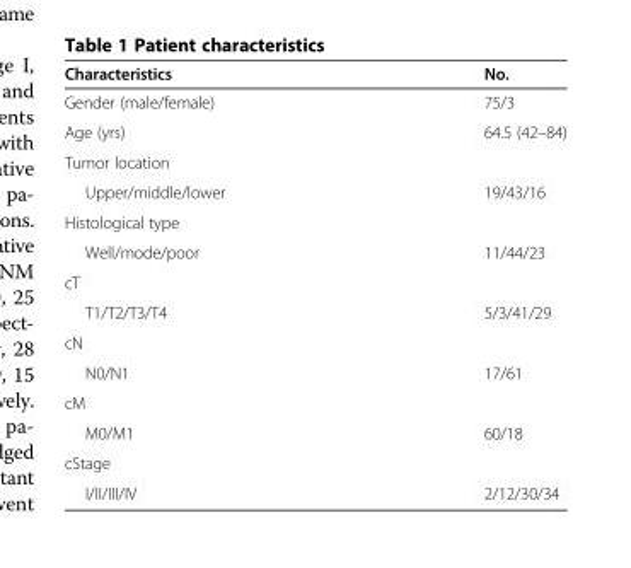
<table><thead><tr><td>Characteristics</td><td>No.</td></tr></thead><tbody><tr><td>Gender (male/female)</td><td>75/3</td></tr><tr><td>Age (yrs)</td><td>64.5 (42–84)</td></tr><tr><td colspan="2">Tumor location</td></tr><tr><td>Upper/middle/lower</td><td>19/43/16</td></tr><tr><td colspan="2">Histological type</td></tr><tr><td>Well/mode/poor</td><td>11/44/23</td></tr><tr><td colspan="2">cT</td></tr><tr><td>T1/T2/T3/T4</td><td>5/3/41/29</td></tr><tr><td colspan="2">cN</td></tr><tr><td>N0/N1</td><td>17/61</td></tr><tr><td colspan="2">cM</td></tr><tr><td>M0/M1</td><td>60/18</td></tr><tr><td colspan="2">cStage</td></tr><tr><td>I/II/III/IV</td><td>2/12/30/34</td></tr></tbody></table>